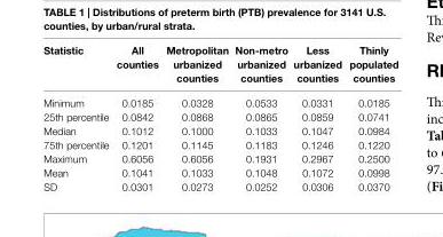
<table><thead><tr><td>statistic</td><td>all counties</td><td>Metropolitan urbanized counties</td><td>non-metro urbanized counties</td><td>less urbanized counties</td><td>Thinly populated counties</td></tr></thead><tbody><tr><td>Minimum</td><td>0.0185</td><td>0.0328</td><td>0.0533</td><td>0.0331</td><td>0.0185</td></tr><tr><td>25th percentile</td><td>0.0842</td><td>0.0868</td><td>0.0865</td><td>0.0859</td><td>0.0741</td></tr><tr><td>Median</td><td>0.1012</td><td>0.1000</td><td>0.1033</td><td>0.1047</td><td>0.0984</td></tr><tr><td>75th percentile</td><td>0.1201</td><td>0.1145</td><td>0.1183</td><td>0.1246</td><td>0.1220</td></tr><tr><td>Maximum</td><td>0.6056</td><td>0.6056</td><td>0.1931</td><td>0.2967</td><td>0.2500</td></tr><tr><td>Mean</td><td>0.1041</td><td>0.1033</td><td>0.1048</td><td>0.1072</td><td>0.0998</td></tr><tr><td>SD</td><td>0.0301</td><td>0.0273</td><td>0.0252</td><td>0.0306</td><td>0.0370</td></tr></tbody></table>